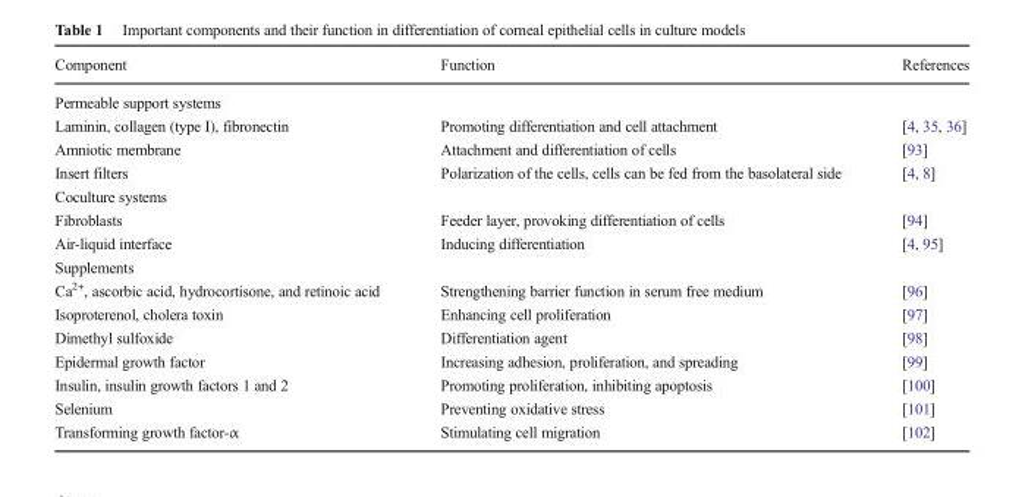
<table><thead><tr><td>Component</td><td>Function</td><td>References</td></tr></thead><tbody><tr><td colspan="3">Permeable support systems</td></tr><tr><td>Laminin, collagen (type I), fibronectin</td><td>Promoting differentiation and cell attachment</td><td>[4, 35, 36]</td></tr><tr><td>Amniotic membrane</td><td>Attachment and differentiation of cells</td><td>[93]</td></tr><tr><td>Insert filters</td><td>Polarization of the cells, cells can be fed from the basolateral side</td><td>[4, 8]</td></tr><tr><td colspan="3">Coculture systems</td></tr><tr><td>Fibroblasts</td><td>Feeder layer, provoking differentiation of cells</td><td>[94]</td></tr><tr><td>Air-liquid interface</td><td>Inducing differentiation</td><td>[4, 95]</td></tr><tr><td colspan="3">Supplements</td></tr><tr><td>Ca<sup>2+</sup>, ascorbic acid, hydrocortisone, and retinoic acid</td><td>Strengthening barrier function in serum free medium</td><td>[96]</td></tr><tr><td>Isoproterenol, cholera toxin</td><td>Enhancing cell proliferation</td><td>[97]</td></tr><tr><td>Dimethyl sulfoxide</td><td>Differentiation agent</td><td>[98]</td></tr><tr><td>Epidermal growth factor</td><td>Increasing adhesion, proliferation, and spreading</td><td>[99]</td></tr><tr><td>Insulin, insulin growth factors 1 and 2</td><td>Promoting proliferation, inhibiting apoptosis</td><td>[100]</td></tr><tr><td>Selenium</td><td>Preventing oxidative stress</td><td>[101]</td></tr><tr><td>Transforming growth factor-α</td><td>Stimulating cell migration</td><td>[102]</td></tr></tbody></table>